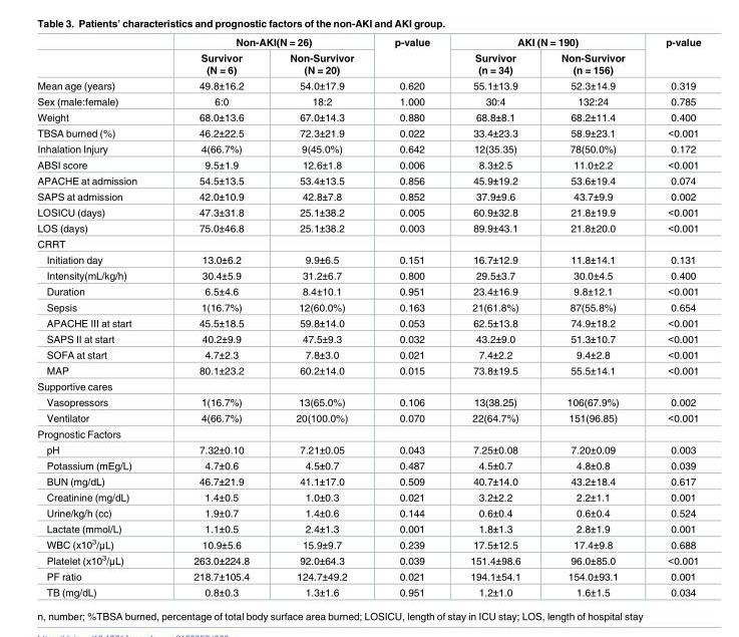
<table><thead><tr><td rowspan="2"></td><td colspan="2">Non-AKI(N = 26)</td><td rowspan="2">p-value</td><td colspan="2">AKI (N = 190)</td><td rowspan="2">p-value</td></tr><tr><td>Survivor (N = 6)</td><td>Non-Survivor (N = 20)</td><td>Survivor (n = 34)</td><td>Non-Survivor (n = 156)</td></tr></thead><tbody><tr><td>Mean age (years)</td><td>49.8±16.2</td><td>54.0±17.9</td><td>0.620</td><td>55.1±13.9</td><td>52.3±14.9</td><td>0.319</td></tr><tr><td>Sex (male:female)</td><td>6:0</td><td>18:2</td><td>1.000</td><td>30:4</td><td>132:24</td><td>0.785</td></tr><tr><td>Weight</td><td>68.0±13.6</td><td>67.0±14.3</td><td>0.880</td><td>68.8±8.1</td><td>68.2±11.4</td><td>0.400</td></tr><tr><td>TBSA burned (%)</td><td>46.2±22.5</td><td>72.3±21.9</td><td>0.022</td><td>33.4±23.3</td><td>58.9±23.1</td><td>&lt;0.001</td></tr><tr><td>Inhalation Injury</td><td>4(66.7%)</td><td>9(45.0%)</td><td>0.642</td><td>12(35.35)</td><td>78(50.0%)</td><td>0.172</td></tr><tr><td>ABSI score</td><td>9.5±1.9</td><td>12.6±1.8</td><td>0.006</td><td>8.3±2.5</td><td>11.0±2.2</td><td>&lt;0.001</td></tr><tr><td>APACHE at admission</td><td>54.5±13.5</td><td>53.4±13.5</td><td>0.856</td><td>45.9±19.2</td><td>53.6±19.4</td><td>0.074</td></tr><tr><td>SAPS at admission</td><td>42.0±10.9</td><td>42.8±7.8</td><td>0.852</td><td>37.9±9.6</td><td>43.7±9.9</td><td>0.002</td></tr><tr><td>LOSICU (days)</td><td>47.3±31.8</td><td>25.1±38.2</td><td>0.005</td><td>60.9±32.8</td><td>21.8±19.9</td><td>&lt;0.001</td></tr><tr><td>LOS (days)</td><td>75.0±46.8</td><td>25.1±38.2</td><td>0.003</td><td>89.9±43.1</td><td>21.8±20.0</td><td>&lt;0.001</td></tr><tr><td colspan="7">CRRT</td></tr><tr><td>Initiation day</td><td>13.0±6.2</td><td>9.9±6.5</td><td>0.151</td><td>16.7±12.9</td><td>11.8±14.1</td><td>0.131</td></tr><tr><td>Intensity(mL/kg/h)</td><td>30.4±5.9</td><td>31.2±6.7</td><td>0.800</td><td>29.5±3.7</td><td>30.0±4.5</td><td>0.400</td></tr><tr><td>Duration</td><td>6.5±4.6</td><td>8.4±10.1</td><td>0.951</td><td>23.4±16.9</td><td>9.8±12.1</td><td>&lt;0.001</td></tr><tr><td>Sepsis</td><td>1(16.7%)</td><td>12(60.0%)</td><td>0.163</td><td>21(61.8%)</td><td>87(55.8%)</td><td>0.654</td></tr><tr><td>APACHE III at start</td><td>45.5±18.5</td><td>59.8±14.0</td><td>0.053</td><td>62.5±13.8</td><td>74.9±18.2</td><td>&lt;0.001</td></tr><tr><td>SAPS II at start</td><td>40.2±9.9</td><td>47.5±9.3</td><td>0.032</td><td>43.2±9.0</td><td>51.3±10.7</td><td>&lt;0.001</td></tr><tr><td>SOFA at start</td><td>4.7±2.3</td><td>7.8±3.0</td><td>0.021</td><td>7.4±2.2</td><td>9.4±2.8</td><td>&lt;0.001</td></tr><tr><td>MAP</td><td>80.1±23.2</td><td>60.2±14.0</td><td>0.015</td><td>73.8±19.5</td><td>55.5±14.1</td><td>&lt;0.001</td></tr><tr><td colspan="7">Supportive cares</td></tr><tr><td>Vasopressors</td><td>1(16.7%)</td><td>13(65.0%)</td><td>0.106</td><td>13(38.25)</td><td>106(67.9%)</td><td>0.002</td></tr><tr><td>Ventilator</td><td>4(66.7%)</td><td>20(100.0%)</td><td>0.070</td><td>22(64.7%)</td><td>151(96.85)</td><td>&lt;0.001</td></tr><tr><td colspan="7">Prognostic Factors</td></tr><tr><td>pH</td><td>7.32±0.10</td><td>7.21±0.05</td><td>0.043</td><td>7.25±0.08</td><td>7.20±0.09</td><td>0.003</td></tr><tr><td>Potassium (mEg/L)</td><td>4.7±0.6</td><td>4.5±0.7</td><td>0.487</td><td>4.5±0.7</td><td>4.8±0.8</td><td>0.039</td></tr><tr><td>BUN (mg/dL)</td><td>46.7±21.9</td><td>41.1±17.0</td><td>0.509</td><td>40.7±14.0</td><td>43.2±18.4</td><td>0.617</td></tr><tr><td>Creatinine (mg/dL)</td><td>1.4±0.5</td><td>1.0±0.3</td><td>0.021</td><td>3.2±2.2</td><td>2.2±1.1</td><td>0.001</td></tr><tr><td>Urine/kg/h (cc)</td><td>1.9±0.7</td><td>1.4±0.6</td><td>0.144</td><td>0.6±0.4</td><td>0.6±0.4</td><td>0.524</td></tr><tr><td>Lactate (mmol/L)</td><td>1.1±0.5</td><td>2.4±1.3</td><td>0.001</td><td>1.8±1.3</td><td>2.8±1.9</td><td>0.001</td></tr><tr><td>WBC (x10<sup>3</sup>/μL)</td><td>10.9±5.6</td><td>15.9±9.7</td><td>0.239</td><td>17.5±12.5</td><td>17.4±9.8</td><td>0.688</td></tr><tr><td>Platelet (x10<sup>3</sup>/μL)</td><td>263.0±224.8</td><td>92.0±64.3</td><td>0.039</td><td>151.4±98.6</td><td>96.0±85.0</td><td>&lt;0.001</td></tr><tr><td>PF ratio</td><td>218.7±105.4</td><td>124.7±49.2</td><td>0.021</td><td>194.1±54.1</td><td>154.0±93.1</td><td>0.001</td></tr><tr><td>TB (mg/dL)</td><td>0.8±0.3</td><td>1.3±1.6</td><td>0.951</td><td>1.2±1.0</td><td>1.6±1.5</td><td>0.034</td></tr></tbody></table>